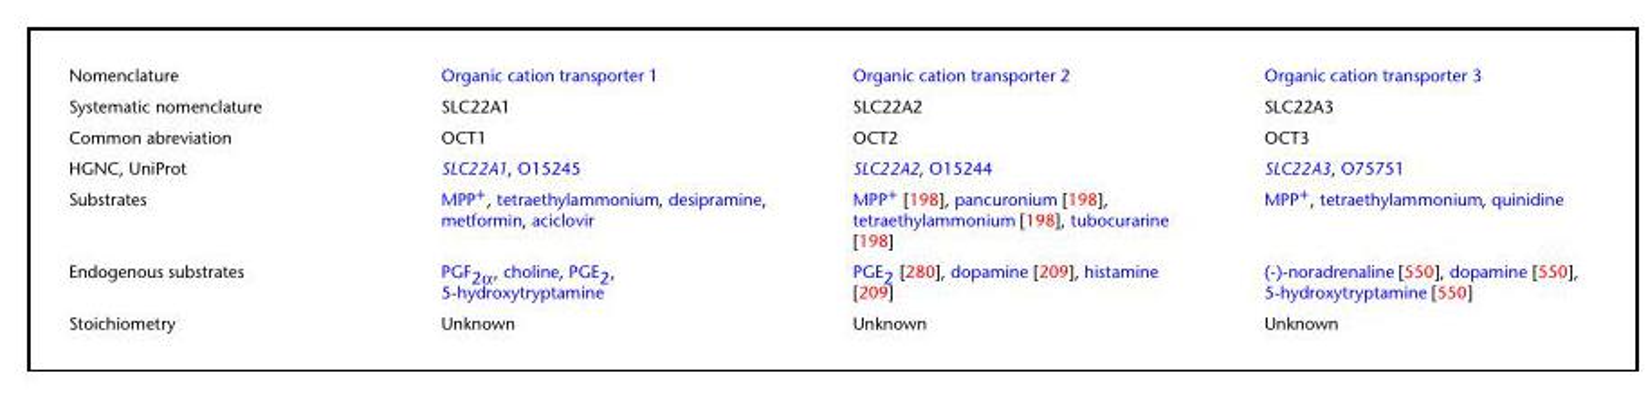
<table><tbody><tr><td>Nomenclature</td><td>Organic cation transporter 1</td><td>Organic cation transporter 2</td><td>Organic cation transporter 3</td></tr><tr><td>Systematic nomenclature</td><td>SLC22A1</td><td>SLC22A2</td><td>SLC22A3</td></tr><tr><td>Common abreviation</td><td>OCT1</td><td>OCT2</td><td>OCT3</td></tr><tr><td>HGNC, UniProt</td><td>SLC22A1, O15245</td><td>SLC22A2, O15244</td><td>SLC22A3, O75751</td></tr><tr><td>Substrates</td><td>MPP<sup>+</sup>, tetraethylammonium, desipramine, metformin, aciclovir</td><td>MPP<sup>+</sup> [198], pancuronium [198], tetraethylammonium [198], tubocurarine [198]</td><td>MPP<sup>+</sup>, tetraethylammonium, quinidine</td></tr><tr><td>Endogenous substrates</td><td>PGF<sub>2α</sub>, choline, PGE<sub>2</sub>, 5-hydroxytryptamine</td><td>PGE<sub>2</sub> [280], dopamine [209], histamine [209]</td><td>(-)-noradrenaline [550], dopamine [550], 5-hydroxytryptamine [550]</td></tr><tr><td>Stoichiometry</td><td>Unknown</td><td>Unknown</td><td>Unknown</td></tr></tbody></table>